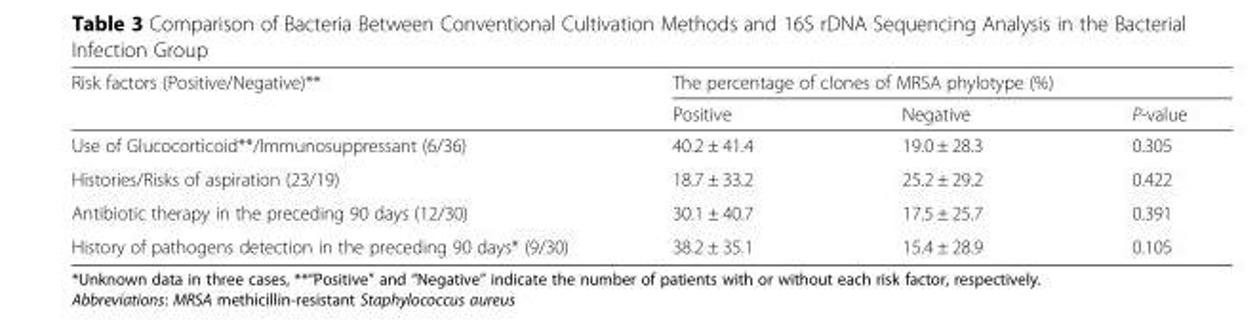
<table><thead><tr><td rowspan="2">Risk factors (Positive/Negative)**</td><td colspan="3">The percentage of clones of MRSA phylotype (%)</td></tr><tr><td>Positive</td><td>Negative</td><td>P-value</td></tr></thead><tbody><tr><td>Use of Glucocorticoid**/Immunosuppressant (6/36)</td><td>40.2 ± 41.4</td><td>19.0 ± 28.3</td><td>0.305</td></tr><tr><td>Histories/Risks of aspiration (23/19)</td><td>18.7 ± 33.2</td><td>25.2 ± 29.2</td><td>0.422</td></tr><tr><td>Antibiotic therapy in the preceding 90 days (12/30)</td><td>30.1 ± 40.7</td><td>17.5 ± 25.7</td><td>0.391</td></tr><tr><td>History of pathogens detection in the preceding 90 days* (9/30)</td><td>38.2 ± 35.1</td><td>15.4 ± 28.9</td><td>0.105</td></tr></tbody></table>